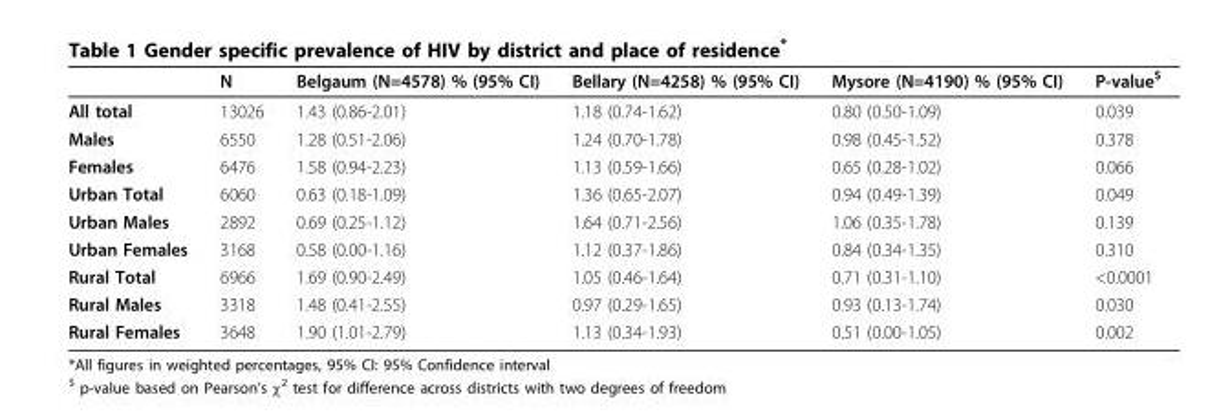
<table><thead><tr><td></td><td>N</td><td>Belgaum (N=4578) % (95% CI)</td><td>Bellary (N=4258) % (95% CI)</td><td>Mysore (N=4190) % (95% CI)</td><td>P-value<sup>$</sup></td></tr></thead><tbody><tr><td>All total</td><td>13026</td><td>1.43 (0.86-2.01)</td><td>1.18 (0.74-1.62)</td><td>0.80 (0.50-1.09)</td><td>0.039</td></tr><tr><td>Males</td><td>6550</td><td>1.28 (0.51-2.06)</td><td>1.24 (0.70-1.78)</td><td>0.98 (0.45-1.52)</td><td>0.378</td></tr><tr><td>Females</td><td>6476</td><td>1.58 (0.94-2.23)</td><td>1.13 (0.59-1.66)</td><td>0.65 (0.28-1.02)</td><td>0.066</td></tr><tr><td>Urban Total</td><td>6060</td><td>0.63 (0.18-1.09)</td><td>1.36 (0.65-2.07)</td><td>0.94 (0.49-1.39)</td><td>0.049</td></tr><tr><td>Urban Males</td><td>2892</td><td>0.69 (0.25-1.12)</td><td>1.64 (0.71-2.56)</td><td>1.06 (0.35-1.78)</td><td>0.139</td></tr><tr><td>Urban Females</td><td>3168</td><td>0.58 (0.00-1.16)</td><td>1.12 (0.37-1.86)</td><td>0.84 (0.34-1.35)</td><td>0.310</td></tr><tr><td>Rural Total</td><td>6966</td><td>1.69 (0.90-2.49)</td><td>1.05 (0.46-1.64)</td><td>0.71 (0.31-1.10)</td><td>&lt;0.0001</td></tr><tr><td>Rural Males</td><td>3318</td><td>1.48 (0.41-2.55)</td><td>0.97 (0.29-1.65)</td><td>0.93 (0.13-1.74)</td><td>0.030</td></tr><tr><td>Rural Females</td><td>3648</td><td>1.90 (1.01-2.79)</td><td>1.13 (0.34-1.93)</td><td>0.51 (0.00-1.05)</td><td>0.002</td></tr></tbody></table>